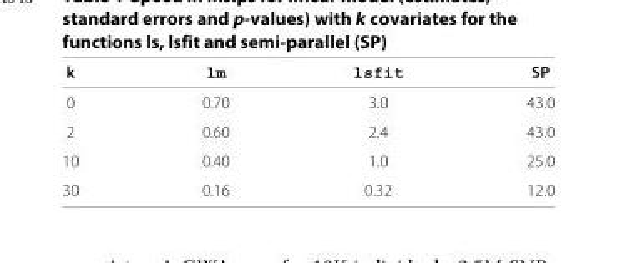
<table><thead><tr><td>k</td><td>lm</td><td>lsfit</td><td>SP</td></tr></thead><tbody><tr><td>0</td><td>0.70</td><td>3.0</td><td>43.0</td></tr><tr><td>2</td><td>0.60</td><td>2.4</td><td>43.0</td></tr><tr><td>10</td><td>0.40</td><td>1.0</td><td>25.0</td></tr><tr><td>30</td><td>0.16</td><td>0.32</td><td>12.0</td></tr></tbody></table>